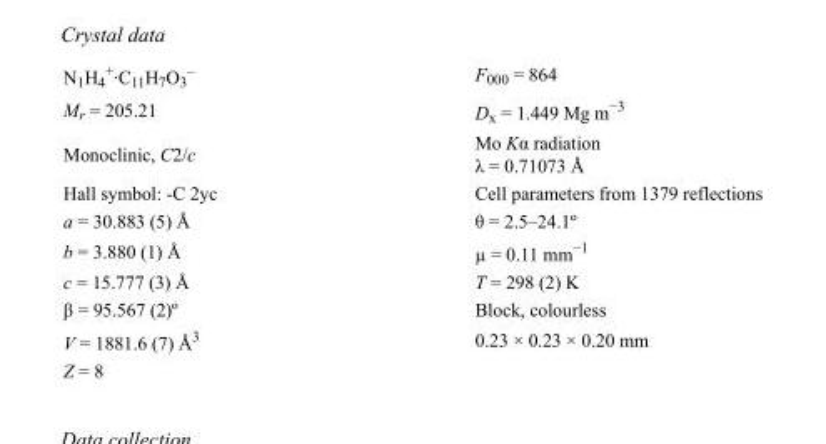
<table><tbody><tr><td>N<sub>1</sub>H<sub>4</sub> <sup>+</sup>·C<sub>11</sub>H<sub>7</sub>O<sub>3</sub> <sup>–</sup></td><td>F<sub>000</sub> = 864</td></tr><tr><td>M<sub>r</sub> = 205.21</td><td>D<sub>x</sub> = 1.449 Mg m<sup>−3</sup></td></tr><tr><td>Monoclinic, C2/c</td><td>Mo Kα radiation λ = 0.71073 Å</td></tr><tr><td>Hall symbol: -C 2yc</td><td>Cell parameters from 1379 reflections</td></tr><tr><td>a = 30.883 (5) Å</td><td>θ = 2.5–24.1º</td></tr><tr><td>b = 3.880 (1) Å</td><td>µ = 0.11 mm<sup>−1</sup></td></tr><tr><td>c = 15.777 (3) Å</td><td>T = 298 (2) K</td></tr><tr><td>β = 95.567 (2)º</td><td>Block, colourless</td></tr><tr><td>V = 1881.6 (7) Å<sup>3</sup></td><td>0.23 × 0.23 × 0.20 mm</td></tr><tr><td>Z = 8</td><td></td></tr></tbody></table>